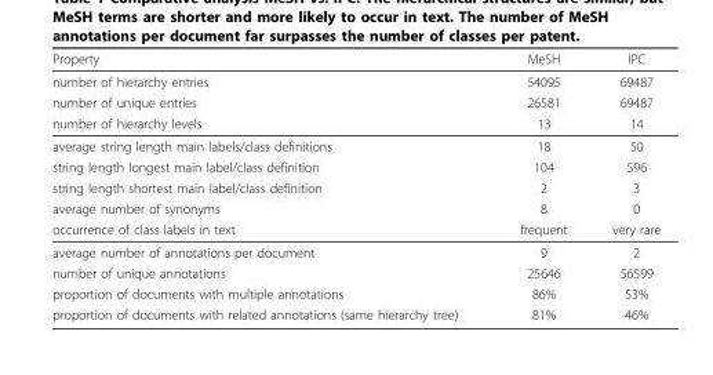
<table><thead><tr><td>Property</td><td>MeSH</td><td>IPC</td></tr></thead><tbody><tr><td>number of hierarchy entries</td><td>54095</td><td>69487</td></tr><tr><td>number of unique entries</td><td>26581</td><td>69487</td></tr><tr><td>number of hierarchy levels</td><td>13</td><td>14</td></tr><tr><td>average string length main labels/class definitions</td><td>18</td><td>50</td></tr><tr><td>string length longest main label/class definition</td><td>104</td><td>596</td></tr><tr><td>string length shortest main label/class definition</td><td>2</td><td>3</td></tr><tr><td>average number of synonyms</td><td>8</td><td>0</td></tr><tr><td>occurrence of class labels in text</td><td>frequent</td><td>very rare</td></tr><tr><td>average number of annotations per document</td><td>9</td><td>2</td></tr><tr><td>number of unique annotations</td><td>25646</td><td>56599</td></tr><tr><td>proportion of documents with multiple annotations</td><td>86%</td><td>53%</td></tr><tr><td>proportion of documents with related annotations (same hierarchy tree)</td><td>81%</td><td>46%</td></tr></tbody></table>